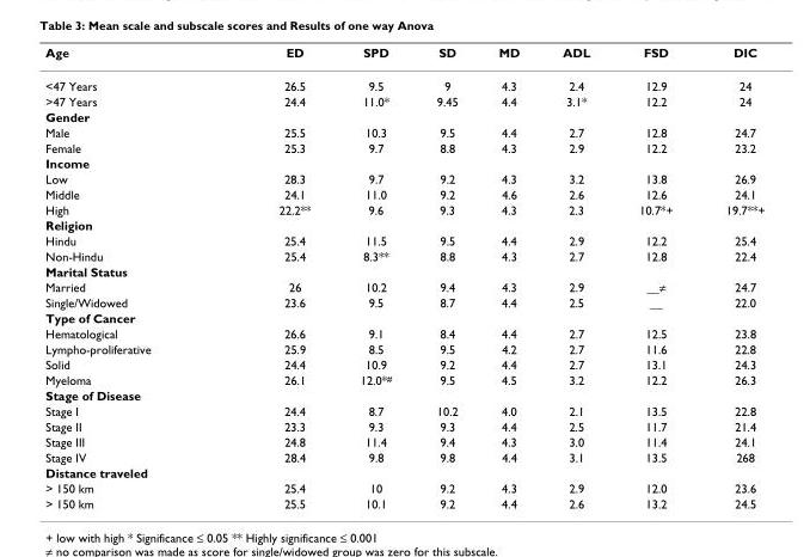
<table><thead><tr><td>Age</td><td>ED</td><td>SPD</td><td>SD</td><td>MD</td><td>ADL</td><td>FSD</td><td>DIC</td></tr></thead><tbody><tr><td>&lt;47 Years</td><td>26.5</td><td>9.5</td><td>9</td><td>4.3</td><td>2.4</td><td>12.9</td><td>24</td></tr><tr><td>&gt;47 Years</td><td>24.4</td><td>11.0*</td><td>9.45</td><td>4.4</td><td>3.1*</td><td>12.2</td><td>24</td></tr><tr><td colspan="8">Gender</td></tr><tr><td>Male</td><td>25.5</td><td>10.3</td><td>9.5</td><td>4.4</td><td>2.7</td><td>12.8</td><td>24.7</td></tr><tr><td>Female</td><td>25.3</td><td>9.7</td><td>8.8</td><td>4.3</td><td>2.9</td><td>12.2</td><td>23.2</td></tr><tr><td colspan="8">Income</td></tr><tr><td>Low</td><td>28.3</td><td>9.7</td><td>9.2</td><td>4.3</td><td>3.2</td><td>13.8</td><td>26.9</td></tr><tr><td>Middle</td><td>24.1</td><td>11.0</td><td>9.2</td><td>4.6</td><td>2.6</td><td>12.6</td><td>24.1</td></tr><tr><td>High</td><td>22.2**</td><td>9.6</td><td>9.3</td><td>4.3</td><td>2.3</td><td>10.7*+</td><td>19.7**+</td></tr><tr><td colspan="8">Religion</td></tr><tr><td>Hindu</td><td>25.4</td><td>11.5</td><td>9.5</td><td>4.4</td><td>2.9</td><td>12.2</td><td>25.4</td></tr><tr><td>Non-Hindu</td><td>25.4</td><td>8.3**</td><td>8.8</td><td>4.3</td><td>2.7</td><td>12.8</td><td>22.4</td></tr><tr><td colspan="8">Marital Status</td></tr><tr><td>Married</td><td>26</td><td>10.2</td><td>9.4</td><td>4.3</td><td>2.9</td><td>__≠</td><td>24.7</td></tr><tr><td>Single/Widowed</td><td>23.6</td><td>9.5</td><td>8.7</td><td>4.4</td><td>2.5</td><td>__</td><td>22.0</td></tr><tr><td colspan="8">Type of Cancer</td></tr><tr><td>Hematological</td><td>26.6</td><td>9.1</td><td>8.4</td><td>4.4</td><td>2.7</td><td>12.5</td><td>23.8</td></tr><tr><td>Lympho-proliferative</td><td>25.9</td><td>8.5</td><td>9.5</td><td>4.2</td><td>2.7</td><td>11.6</td><td>22.8</td></tr><tr><td>Solid</td><td>24.4</td><td>10.9</td><td>9.2</td><td>4.4</td><td>2.7</td><td>13.1</td><td>24.3</td></tr><tr><td>Myeloma</td><td>26.1</td><td>12.0*<sup>#</sup></td><td>9.5</td><td>4.5</td><td>3.2</td><td>12.2</td><td>26.3</td></tr><tr><td colspan="8">Stage of Disease</td></tr><tr><td>Stage I</td><td>24.4</td><td>8.7</td><td>10.2</td><td>4.0</td><td>2.1</td><td>13.5</td><td>22.8</td></tr><tr><td>Stage II</td><td>23.3</td><td>9.3</td><td>9.3</td><td>4.4</td><td>2.5</td><td>11.7</td><td>21.4</td></tr><tr><td>Stage III</td><td>24.8</td><td>11.4</td><td>9.4</td><td>4.3</td><td>3.0</td><td>11.4</td><td>24.1</td></tr><tr><td>Stage IV</td><td>28.4</td><td>9.8</td><td>9.8</td><td>4.4</td><td>3.1</td><td>13.5</td><td>268</td></tr><tr><td colspan="8">Distance traveled</td></tr><tr><td>&gt; 150 km</td><td>25.4</td><td>10</td><td>9.2</td><td>4.3</td><td>2.9</td><td>12.0</td><td>23.6</td></tr><tr><td>&gt; 150 km</td><td>25.5</td><td>10.1</td><td>9.2</td><td>4.4</td><td>2.6</td><td>13.2</td><td>24.5</td></tr></tbody></table>